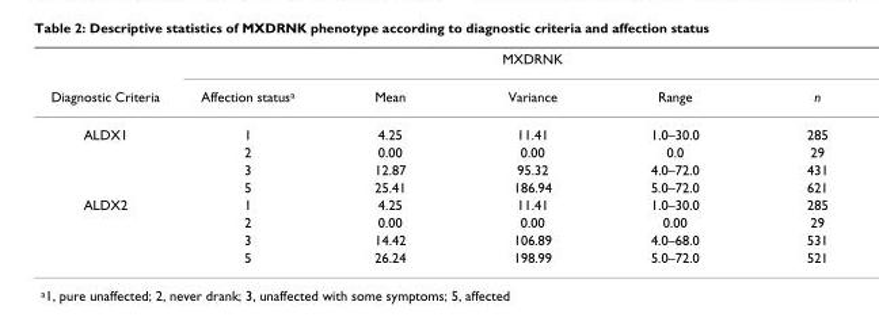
<table><thead><tr><td rowspan="2">Diagnostic Criteria</td><td colspan="5">MXDRNK</td></tr><tr><td>Affection statusa</td><td>Mean</td><td>Variance</td><td>Range</td><td>n</td></tr></thead><tbody><tr><td rowspan="4">ALDX1</td><td>1</td><td>4.25</td><td>11.41</td><td>1.0–30.0</td><td>285</td></tr><tr><td>2</td><td>0.00</td><td>0.00</td><td>0.0</td><td>29</td></tr><tr><td>3</td><td>12.87</td><td>95.32</td><td>4.0–72.0</td><td>431</td></tr><tr><td>5</td><td>25.41</td><td>186.94</td><td>5.0–72.0</td><td>621</td></tr><tr><td rowspan="4">ALDX2</td><td>1</td><td>4.25</td><td>11.41</td><td>1.0–30.0</td><td>285</td></tr><tr><td>2</td><td>0.00</td><td>0.00</td><td>0.00</td><td>29</td></tr><tr><td>3</td><td>14.42</td><td>106.89</td><td>4.0–68.0</td><td>531</td></tr><tr><td>5</td><td>26.24</td><td>198.99</td><td>5.0–72.0</td><td>521</td></tr></tbody></table>